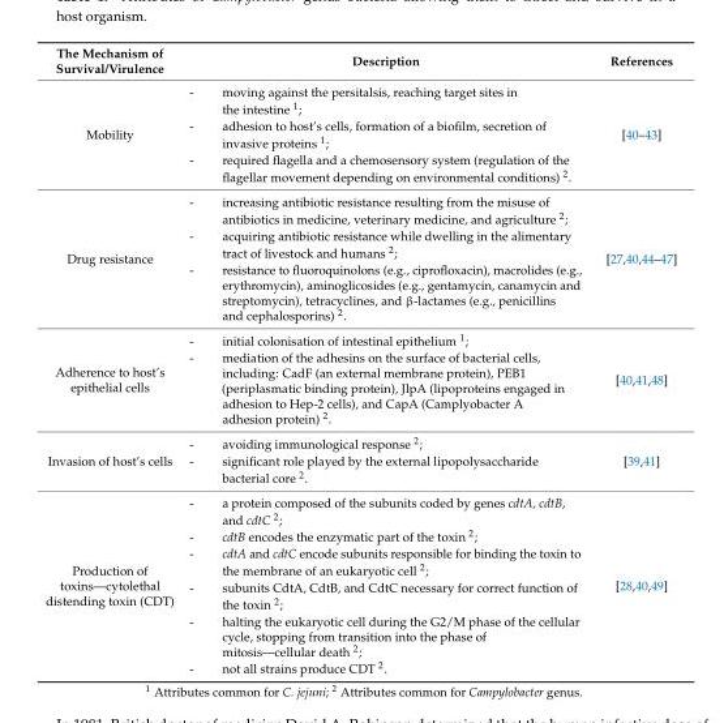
<table><thead><tr><td>The Mechanism of Survival/Virulence</td><td>Description</td><td>References</td></tr></thead><tbody><tr><td>Mobility</td><td>- moving against the persitalsis, reaching target sites in the intestine <sup>1</sup>; - adhesion to host’s cells, formation of a biofilm, secretion of invasive proteins <sup>1</sup>; - required flagella and a chemosensory system (regulation of the flagellar movement depending on environmental conditions) <sup>2</sup>.</td><td>[40–43]</td></tr><tr><td>Drug resistance</td><td>- increasing antibiotic resistance resulting from the misuse of antibiotics in medicine, veterinary medicine, and agriculture <sup>2</sup>; - acquiring antibiotic resistance while dwelling in the alimentary tract of livestock and humans <sup>2</sup>; - resistance to fluoroquinolons (e.g., ciprofloxacin), macrolides (e.g., erythromycin), aminoglicosides (e.g., gentamycin, canamycin and streptomycin), tetracyclines, and β-lactames (e.g., penicillins and cephalosporins) <sup>2</sup>.</td><td>[27,40,44–47]</td></tr><tr><td>Adherence to host’s epithelial cells</td><td>- initial colonisation of intestinal epithelium <sup>1</sup>; - mediation of the adhesins on the surface of bacterial cells, including: CadF (an external membrane protein), PEB1 (periplasmatic binding protein), JlpA (lipoproteins engaged in adhesion to Hep-2 cells), and CapA (Camplyobacter A adhesion protein) <sup>2</sup>.</td><td>[40,41,48]</td></tr><tr><td>Invasion of host’s cells</td><td>- avoiding immunological response <sup>2</sup>; - significant role played by the external lipopolysaccharide bacterial core <sup>2</sup>.</td><td>[39,41]</td></tr><tr><td>Production of toxins—cytolethal distending toxin (CDT)</td><td>- a protein composed of the subunits coded by genes cdtA, cdtB, and cdtC <sup>2</sup>; - cdtB encodes the enzymatic part of the toxin <sup>2</sup>; - cdtA and cdtC encode subunits responsible for binding the toxin to the membrane of an eukaryotic cell <sup>2</sup>; - subunits CdtA, CdtB, and CdtC necessary for correct function of the toxin <sup>2</sup>; - halting the eukaryotic cell during the G2/M phase of the cellular cycle, stopping from transition into the phase of mitosis—cellular death <sup>2</sup>; - not all strains produce CDT <sup>2</sup>.</td><td>[28,40,49]</td></tr></tbody></table>